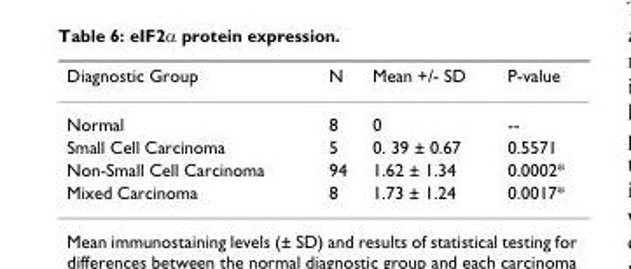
<table><thead><tr><td>Diagnostic Group</td><td>N</td><td>Mean +/- SD</td><td>P-value</td></tr></thead><tbody><tr><td>Normal</td><td>8</td><td>0</td><td>--</td></tr><tr><td>Small Cell Carcinoma</td><td>5</td><td>0. 39 ± 0.67</td><td>0.5571</td></tr><tr><td>Non-Small Cell Carcinoma</td><td>94</td><td>1.62 ± 1.34</td><td>0.0002*</td></tr><tr><td>Mixed Carcinoma</td><td>8</td><td>1.73 ± 1.24</td><td>0.0017*</td></tr></tbody></table>